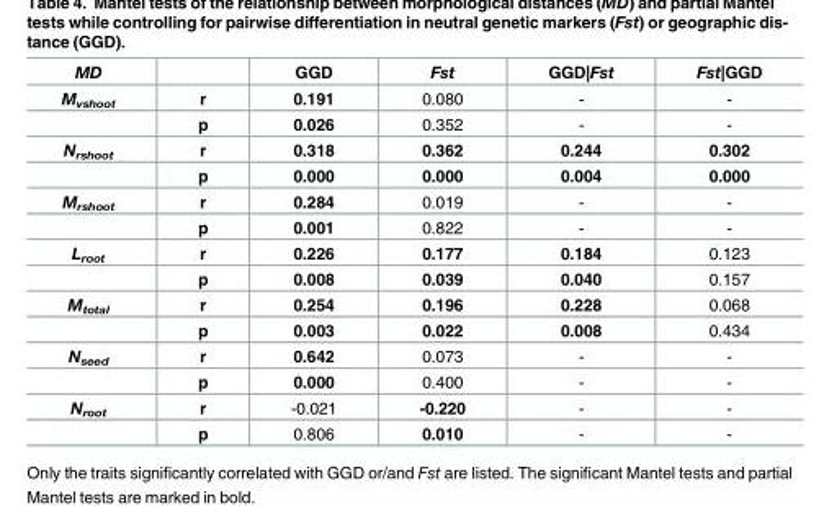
<table><thead><tr><td>MD</td><td></td><td>GGD</td><td>Fst</td><td>GGD|Fst</td><td>Fst|GGD</td></tr></thead><tbody><tr><td rowspan="2">M<sub>vshoot</sub></td><td>r</td><td>0.191</td><td>0.080</td><td>-</td><td>-</td></tr><tr><td>p</td><td>0.026</td><td>0.352</td><td>-</td><td>-</td></tr><tr><td rowspan="2">N<sub>rshoot</sub></td><td>r</td><td>0.318</td><td>0.362</td><td>0.244</td><td>0.302</td></tr><tr><td>p</td><td>0.000</td><td>0.000</td><td>0.004</td><td>0.000</td></tr><tr><td rowspan="2">M<sub>rshoot</sub></td><td>r</td><td>0.284</td><td>0.019</td><td>-</td><td>-</td></tr><tr><td>p</td><td>0.001</td><td>0.822</td><td>-</td><td>-</td></tr><tr><td rowspan="2">L<sub>root</sub></td><td>r</td><td>0.226</td><td>0.177</td><td>0.184</td><td>0.123</td></tr><tr><td>p</td><td>0.008</td><td>0.039</td><td>0.040</td><td>0.157</td></tr><tr><td rowspan="2">M<sub>total</sub></td><td>r</td><td>0.254</td><td>0.196</td><td>0.228</td><td>0.068</td></tr><tr><td>p</td><td>0.003</td><td>0.022</td><td>0.008</td><td>0.434</td></tr><tr><td rowspan="2">N<sub>seed</sub></td><td>r</td><td>0.642</td><td>0.073</td><td>-</td><td>-</td></tr><tr><td>p</td><td>0.000</td><td>0.400</td><td>-</td><td>-</td></tr><tr><td rowspan="2">N<sub>root</sub></td><td>r</td><td>-0.021</td><td>-0.220</td><td>-</td><td>-</td></tr><tr><td>p</td><td>0.806</td><td>0.010</td><td>-</td><td>-</td></tr></tbody></table>